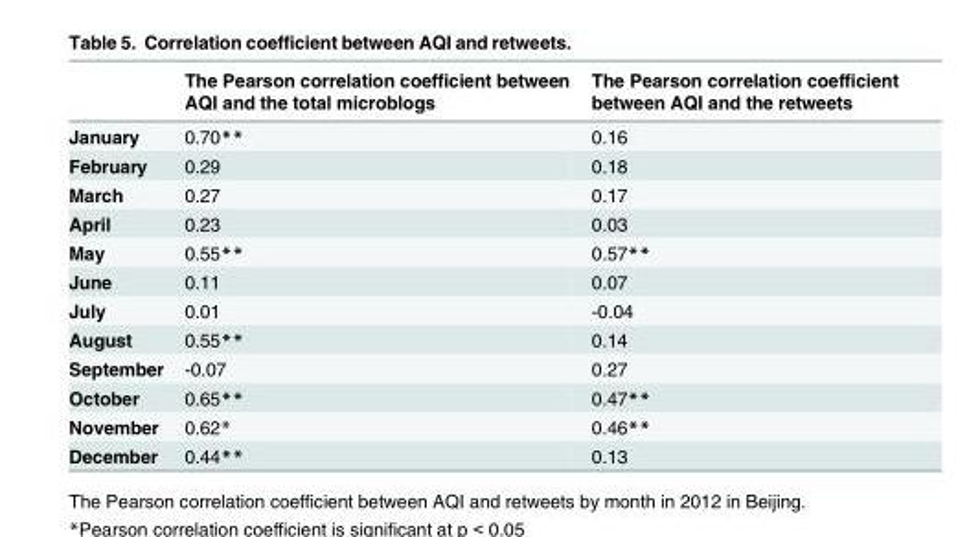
<table><thead><tr><td></td><td>The Pearson correlation coefficient between AQI and the total microblogs</td><td>The Pearson correlation coefficient between AQI and the retweets</td></tr></thead><tbody><tr><td>January</td><td>0.70**</td><td>0.16</td></tr><tr><td>February</td><td>0.29</td><td>0.18</td></tr><tr><td>March</td><td>0.27</td><td>0.17</td></tr><tr><td>April</td><td>0.23</td><td>0.03</td></tr><tr><td>May</td><td>0.55**</td><td>0.57**</td></tr><tr><td>June</td><td>0.11</td><td>0.07</td></tr><tr><td>July</td><td>0.01</td><td>-0.04</td></tr><tr><td>August</td><td>0.55**</td><td>0.14</td></tr><tr><td>September</td><td>-0.07</td><td>0.27</td></tr><tr><td>October</td><td>0.65**</td><td>0.47**</td></tr><tr><td>November</td><td>0.62*</td><td>0.46**</td></tr><tr><td>December</td><td>0.44**</td><td>0.13</td></tr></tbody></table>